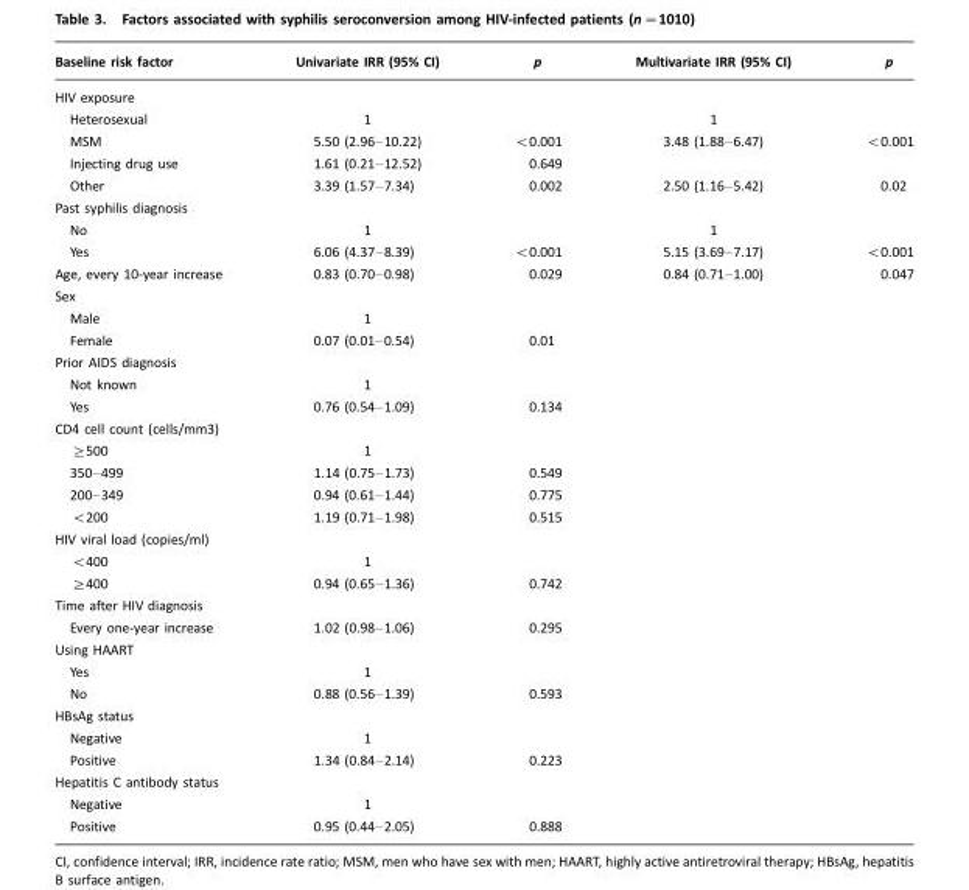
<table><thead><tr><td>Baseline risk factor</td><td>Univariate IRR (95% CI)</td><td>p</td><td>Multivariate IRR (95% CI)</td><td>p</td></tr></thead><tbody><tr><td colspan="5">HIV exposure</td></tr><tr><td>Heterosexual</td><td>1</td><td></td><td>1</td><td></td></tr><tr><td>MSM</td><td>5.50 (2.96–10.22)</td><td>&lt;0.001</td><td>3.48 (1.88–6.47)</td><td>&lt;0.001</td></tr><tr><td>Injecting drug use</td><td>1.61 (0.21–12.52)</td><td>0.649</td><td></td><td></td></tr><tr><td>Other</td><td>3.39 (1.57–7.34)</td><td>0.002</td><td>2.50 (1.16–5.42)</td><td>0.02</td></tr><tr><td colspan="5">Past syphilis diagnosis</td></tr><tr><td>No</td><td>1</td><td></td><td>1</td><td></td></tr><tr><td>Yes</td><td>6.06 (4.37–8.39)</td><td>&lt;0.001</td><td>5.15 (3.69–7.17)</td><td>&lt;0.001</td></tr><tr><td>Age, every 10-year increase</td><td>0.83 (0.70–0.98)</td><td>0.029</td><td>0.84 (0.71–1.00)</td><td>0.047</td></tr><tr><td colspan="5">Sex</td></tr><tr><td>Male</td><td>1</td><td></td><td></td><td></td></tr><tr><td>Female</td><td>0.07 (0.01–0.54)</td><td>0.01</td><td></td><td></td></tr><tr><td colspan="5">Prior AIDS diagnosis</td></tr><tr><td>Not known</td><td>1</td><td></td><td></td><td></td></tr><tr><td>Yes</td><td>0.76 (0.54–1.09)</td><td>0.134</td><td></td><td></td></tr><tr><td colspan="5">CD4 cell count (cells/mm3)</td></tr><tr><td>≥500</td><td>1</td><td></td><td></td><td></td></tr><tr><td>350–499</td><td>1.14 (0.75–1.73)</td><td>0.549</td><td></td><td></td></tr><tr><td>200–349</td><td>0.94 (0.61–1.44)</td><td>0.775</td><td></td><td></td></tr><tr><td>&lt;200</td><td>1.19 (0.71–1.98)</td><td>0.515</td><td></td><td></td></tr><tr><td colspan="5">HIV viral load (copies/ml)</td></tr><tr><td>&lt;400</td><td>1</td><td></td><td></td><td></td></tr><tr><td>≥400</td><td>0.94 (0.65–1.36)</td><td>0.742</td><td></td><td></td></tr><tr><td colspan="5">Time after HIV diagnosis</td></tr><tr><td>Every one-year increase</td><td>1.02 (0.98–1.06)</td><td>0.295</td><td></td><td></td></tr><tr><td colspan="5">Using HAART</td></tr><tr><td>Yes</td><td>1</td><td></td><td></td><td></td></tr><tr><td>No</td><td>0.88 (0.56–1.39)</td><td>0.593</td><td></td><td></td></tr><tr><td colspan="5">HBsAg status</td></tr><tr><td>Negative</td><td>1</td><td></td><td></td><td></td></tr><tr><td>Positive</td><td>1.34 (0.84–2.14)</td><td>0.223</td><td></td><td></td></tr><tr><td colspan="5">Hepatitis C antibody status</td></tr><tr><td>Negative</td><td>1</td><td></td><td></td><td></td></tr><tr><td>Positive</td><td>0.95 (0.44–2.05)</td><td>0.888</td><td></td><td></td></tr></tbody></table>